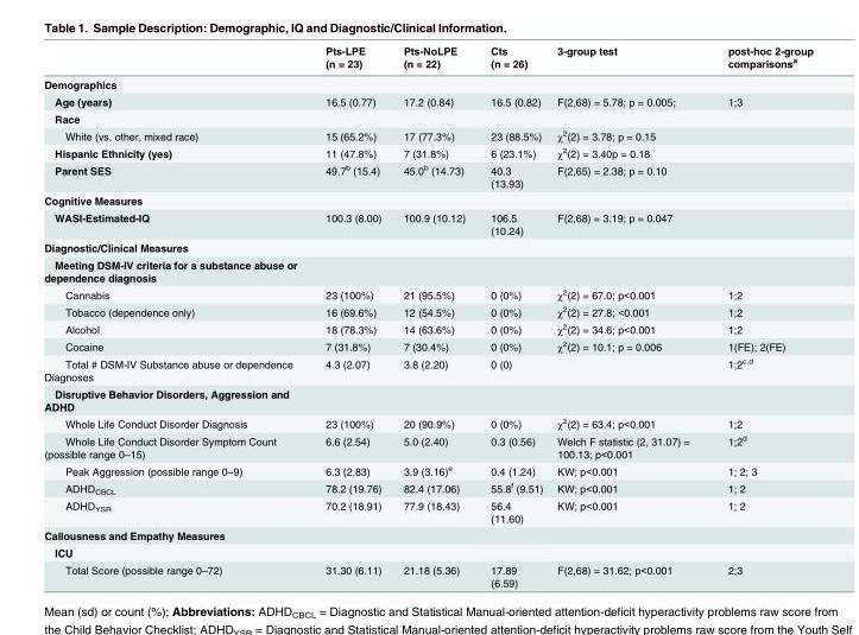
<table><thead><tr><td></td><td>Pts-LPE (n = 23)</td><td>Pts-NoLPE (n = 22)</td><td>Cts (n = 26)</td><td>3-group test</td><td>post-hoc 2-group comparisons<sup>a</sup></td></tr></thead><tbody><tr><td colspan="6">Demographics</td></tr><tr><td>Age (years)</td><td>16.5 (0.77)</td><td>17.2 (0.84)</td><td>16.5 (0.82)</td><td>F(2,68) = 5.78; p = 0.005;</td><td>1;3</td></tr><tr><td colspan="6">Race</td></tr><tr><td>White (vs. other, mixed race)</td><td>15 (65.2%)</td><td>17 (77.3%)</td><td>23 (88.5%)</td><td>χ<sup>2</sup>(2) = 3.78; p = 0.15</td><td></td></tr><tr><td>Hispanic Ethnicity (yes)</td><td>11 (47.8%)</td><td>7 (31.8%)</td><td>6 (23.1%)</td><td>χ<sup>2</sup>(2) = 3.40p = 0.18</td><td></td></tr><tr><td>Parent SES</td><td>49.7<sup>b</sup> (15.4)</td><td>45.0<sup>b</sup> (14.73)</td><td>40.3 (13.93)</td><td>F(2,65) = 2.38; p = 0.10</td><td></td></tr><tr><td colspan="6">Cognitive Measures</td></tr><tr><td>WASI-Estimated-IQ</td><td>100.3 (8.00)</td><td>100.9 (10.12)</td><td>106.5 (10.24)</td><td>F(2,68) = 3.19; p = 0.047</td><td></td></tr><tr><td colspan="6">Diagnostic/Clinical Measures</td></tr><tr><td colspan="6">Meeting DSM-IV criteria for a substance abuse or dependence diagnosis</td></tr><tr><td>Cannabis</td><td>23 (100%)</td><td>21 (95.5%)</td><td>0 (0%)</td><td>χ<sup>2</sup>(2) = 67.0; p&lt;0.001</td><td>1;2</td></tr><tr><td>Tobacco (dependence only)</td><td>16 (69.6%)</td><td>12 (54.5%)</td><td>0 (0%)</td><td>χ<sup>2</sup>(2) = 27.8; &lt;0.001</td><td>1;2</td></tr><tr><td>Alcohol</td><td>18 (78.3%)</td><td>14 (63.6%)</td><td>0 (0%)</td><td>χ<sup>2</sup>(2) = 34.6; p&lt;0.001</td><td>1;2</td></tr><tr><td>Cocaine</td><td>7 (31.8%)</td><td>7 (30.4%)</td><td>0 (0%)</td><td>χ<sup>2</sup>(2) = 10.1; p = 0.006</td><td>1(FE); 2(FE)</td></tr><tr><td>Total # DSM-IV Substance abuse or dependence Diagnoses</td><td>4.3 (2.07)</td><td>3.8 (2.20)</td><td>0 (0)</td><td></td><td>1;2<sup>c,d</sup></td></tr><tr><td colspan="6">Disruptive Behavior Disorders, Aggression and ADHD</td></tr><tr><td>Whole Life Conduct Disorder Diagnosis</td><td>23 (100%)</td><td>20 (90.9%)</td><td>0 (0%)</td><td>χ<sup>2</sup>(2) = 63.4; p&lt;0.001</td><td>1;2</td></tr><tr><td>Whole Life Conduct Disorder Symptom Count (possible range 0–15)</td><td>6.6 (2.54)</td><td>5.0 (2.40)</td><td>0.3 (0.56)</td><td>Welch F statistic (2, 31.07) = 100.13; p&lt;0.001</td><td>1;2<sup>d</sup></td></tr><tr><td>Peak Aggression (possible range 0–9)</td><td>6.3 (2.83)</td><td>3.9 (3.16)<sup>e</sup></td><td>0.4 (1.24)</td><td>KW; p&lt;0.001</td><td>1; 2; 3</td></tr><tr><td>ADHD<sub>CBCL</sub></td><td>78.2 (19.76)</td><td>82.4 (17.06)</td><td>55.8<sup>f</sup> (9.51)</td><td>KW; p&lt;0.001</td><td>1; 2</td></tr><tr><td>ADHD<sub>YSR</sub></td><td>70.2 (18.91)</td><td>77.9 (18.43)</td><td>56.4 (11.60)</td><td>KW; p&lt;0.001</td><td>1; 2</td></tr><tr><td colspan="6">Callousness and Empathy Measures</td></tr><tr><td colspan="6">ICU</td></tr><tr><td>Total Score (possible range 0–72)</td><td>31.30 (6.11)</td><td>21.18 (5.36)</td><td>17.89 (6.59)</td><td>F(2,68) = 31.62; p&lt;0.001</td><td>2;3</td></tr></tbody></table>